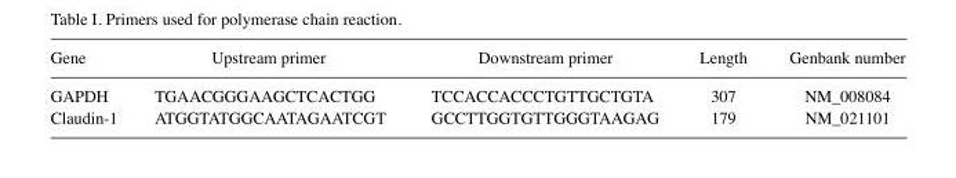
<table><thead><tr><td>Gene</td><td>Upstream primer</td><td>Downstream primer</td><td>Length</td><td>Genbank number</td></tr></thead><tbody><tr><td>GAPDH</td><td>TGAACGGGAAGCTCACTGG</td><td>TCCACCACCCTGTTGCTGTA</td><td>307</td><td>NM_008084</td></tr><tr><td>Claudin-1</td><td>ATGGTATGGCAATAGAATCGT</td><td>GCCTTGGTGTTGGGTAAGAG</td><td>179</td><td>NM_021101</td></tr></tbody></table>